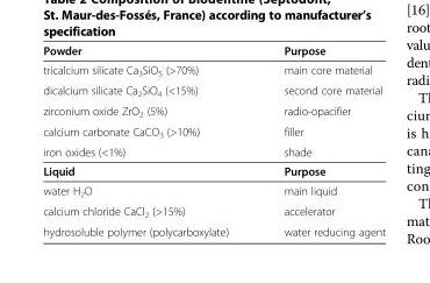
<table><tbody><tr><td>Powder</td><td>Purpose</td></tr><tr><td>tricalcium silicate Ca<sub>3</sub>SiO<sub>5</sub> (&gt;70%)</td><td>main core material</td></tr><tr><td>dicalcium silicate Ca<sub>2</sub>SiO<sub>4</sub> (&lt;15%)</td><td>second core material</td></tr><tr><td>zirconium oxide ZrO<sub>2</sub> (5%)</td><td>radio-opacifier</td></tr><tr><td>calcium carbonate CaCO<sub>3</sub> (&gt;10%)</td><td>filler</td></tr><tr><td>iron oxides (&lt;1%)</td><td>shade</td></tr><tr><td>Liquid</td><td>Purpose</td></tr><tr><td>water H<sub>2</sub>O</td><td>main liquid</td></tr><tr><td>calcium chloride CaCl<sub>2</sub> (&gt;15%)</td><td>accelerator</td></tr><tr><td>hydrosoluble polymer (polycarboxylate)</td><td>water reducing agent</td></tr></tbody></table>